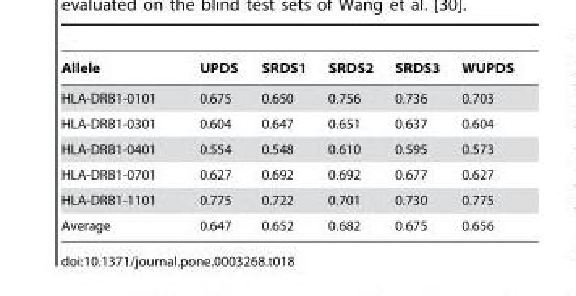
<table><thead><tr><td>Allele</td><td>UPDS</td><td>SRDS1</td><td>SRDS2</td><td>SRDS3</td><td>WUPDS</td></tr></thead><tbody><tr><td>HLA-DRB1-0101</td><td>0.675</td><td>0.650</td><td>0.756</td><td>0.736</td><td>0.703</td></tr><tr><td>HLA-DRB1-0301</td><td>0.604</td><td>0.647</td><td>0.651</td><td>0.637</td><td>0.604</td></tr><tr><td>HLA-DRB1-0401</td><td>0.554</td><td>0.548</td><td>0.610</td><td>0.595</td><td>0.573</td></tr><tr><td>HLA-DRB1-0701</td><td>0.627</td><td>0.692</td><td>0.692</td><td>0.677</td><td>0.627</td></tr><tr><td>HLA-DRB1-1101</td><td>0.775</td><td>0.722</td><td>0.701</td><td>0.730</td><td>0.775</td></tr><tr><td>Average</td><td>0.647</td><td>0.652</td><td>0.682</td><td>0.675</td><td>0.656</td></tr></tbody></table>